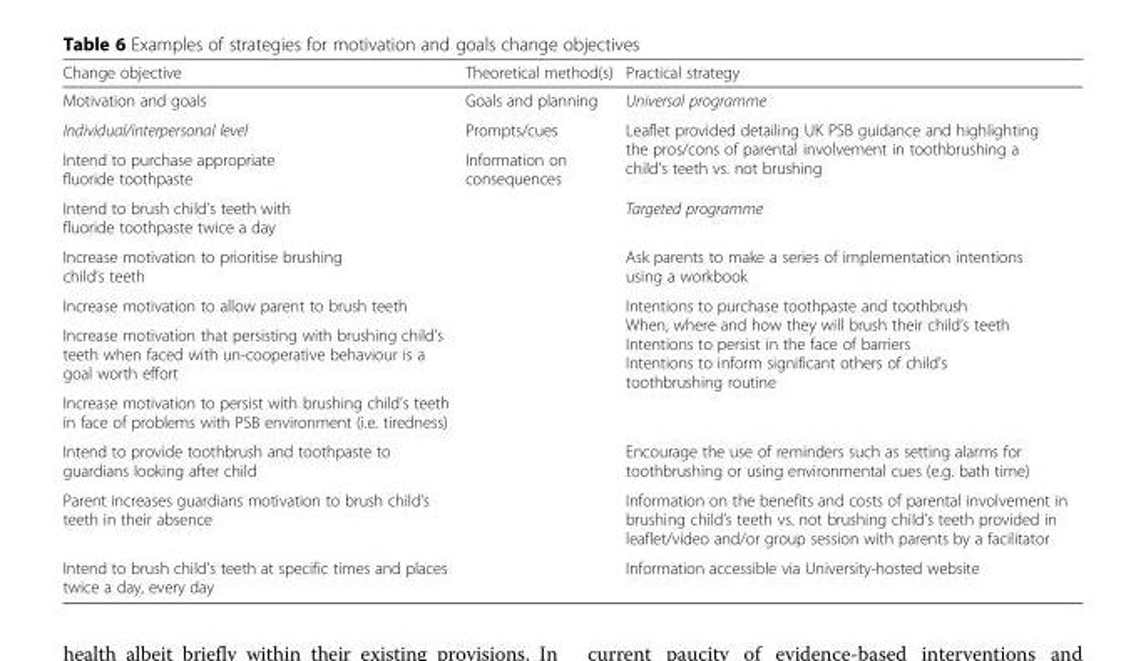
<table><thead><tr><td>Change objective</td><td>Theoretical method(s)</td><td>Practical strategy</td></tr></thead><tbody><tr><td>Motivation and goals</td><td>Goals and planning</td><td>Universal programme</td></tr><tr><td>Individual/interpersonal level</td><td>Prompts/cues</td><td rowspan="2">Leaflet provided detailing UK PSB guidance and highlighting the pros/cons of parental involvement in toothbrushing a child’s teeth vs. not brushing</td></tr><tr><td>Intend to purchase appropriate fluoride toothpaste</td><td rowspan="9">Information on consequences</td></tr><tr><td>Intend to brush child’s teeth with fluoride toothpaste twice a day</td><td>Targeted programme</td></tr><tr><td>Increase motivation to prioritise brushing child’s teeth</td><td>Ask parents to make a series of implementation intentions using a workbook</td></tr><tr><td>Increase motivation to allow parent to brush teeth</td><td rowspan="3">Intentions to purchase toothpaste and toothbrush When, where and how they will brush their child’s teeth Intentions to persist in the face of barriers Intentions to inform significant others of child’s toothbrushing routine</td></tr><tr><td>Increase motivation that persisting with brushing child’s teeth when faced with un-cooperative behaviour is a goal worth effort</td></tr><tr><td>Increase motivation to persist with brushing child’s teeth in face of problems with PSB environment (i.e. tiredness)</td></tr><tr><td>Intend to provide toothbrush and toothpaste to guardians looking after child</td><td>Encourage the use of reminders such as setting alarms for toothbrushing or using environmental cues (e.g. bath time)</td></tr><tr><td>Parent increases guardians motivation to brush child’s teeth in their absence</td><td>Information on the benefits and costs of parental involvement in brushing child’s teeth vs. not brushing child’s teeth provided in leaflet/video and/or group session with parents by a facilitator</td></tr><tr><td>Intend to brush child’s teeth at specific times and places twice a day, every day</td><td>Information accessible via University-hosted website</td></tr></tbody></table>